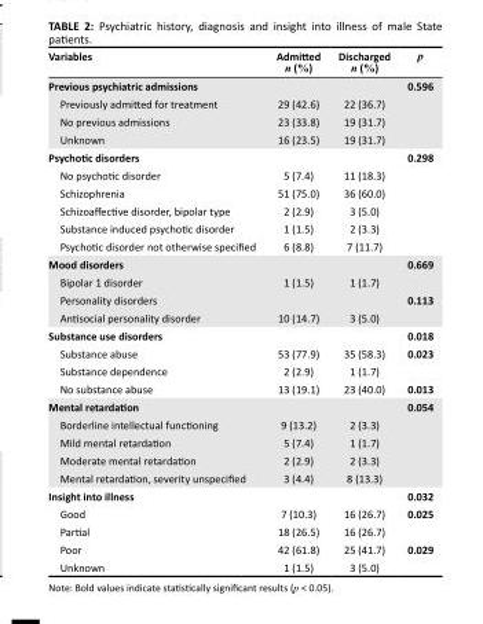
<table><thead><tr><td>Variables</td><td>Admitted n (%)</td><td>Discharged n (%)</td><td>p</td></tr></thead><tbody><tr><td>Previous psychiatric admissions</td><td></td><td></td><td>0.596</td></tr><tr><td>Previously admitted for treatment</td><td>29 (42.6)</td><td>22 (36.7)</td><td></td></tr><tr><td>No previous admissions</td><td>23 (33.8)</td><td>19 (31.7)</td><td></td></tr><tr><td>Unknown</td><td>16 (23.5)</td><td>19 (31.7)</td><td></td></tr><tr><td>Psychotic disorders</td><td></td><td></td><td>0.298</td></tr><tr><td>No psychotic disorder</td><td>5 (7.4)</td><td>11 (18.3)</td><td></td></tr><tr><td>Schizophrenia</td><td>51 (75.0)</td><td>36 (60.0)</td><td></td></tr><tr><td>Schizoaffective disorder, bipolar type</td><td>2 (2.9)</td><td>3 (5.0)</td><td></td></tr><tr><td>Substance induced psychotic disorder</td><td>1 (1.5)</td><td>2 (3.3)</td><td></td></tr><tr><td>Psychotic disorder not otherwise specified</td><td>6 (8.8)</td><td>7 (11.7)</td><td></td></tr><tr><td>Mood disorders</td><td></td><td></td><td>0.669</td></tr><tr><td>Bipolar 1 disorder</td><td>1 (1.5)</td><td>1 (1.7)</td><td></td></tr><tr><td>Personality disorders</td><td></td><td></td><td>0.113</td></tr><tr><td>Antisocial personality disorder</td><td>10 (14.7)</td><td>3 (5.0)</td><td></td></tr><tr><td>Substance use disorders</td><td></td><td></td><td>0.018</td></tr><tr><td>Substance abuse</td><td>53 (77.9)</td><td>35 (58.3)</td><td>0.023</td></tr><tr><td>Substance dependence</td><td>2 (2.9)</td><td>1 (1.7)</td><td></td></tr><tr><td>No substance abuse</td><td>13 (19.1)</td><td>23 (40.0)</td><td>0.013</td></tr><tr><td>Mental retardation</td><td></td><td></td><td>0.054</td></tr><tr><td>Borderline intellectual functioning</td><td>9 (13.2)</td><td>2 (3.3)</td><td></td></tr><tr><td>Mild mental retardation</td><td>5 (7.4)</td><td>1 (1.7)</td><td></td></tr><tr><td>Moderate mental retardation</td><td>2 (2.9)</td><td>2 (3.3)</td><td></td></tr><tr><td>Mental retardation, severity unspecified</td><td>3 (4.4)</td><td>8 (13.3)</td><td></td></tr><tr><td>Insight into illness</td><td></td><td></td><td>0.032</td></tr><tr><td>Good</td><td>7 (10.3)</td><td>16 (26.7)</td><td>0.025</td></tr><tr><td>Partial</td><td>18 (26.5)</td><td>16 (26.7)</td><td></td></tr><tr><td>Poor</td><td>42 (61.8)</td><td>25 (41.7)</td><td>0.029</td></tr><tr><td>Unknown</td><td>1 (1.5)</td><td>3 (5.0)</td><td></td></tr></tbody></table>